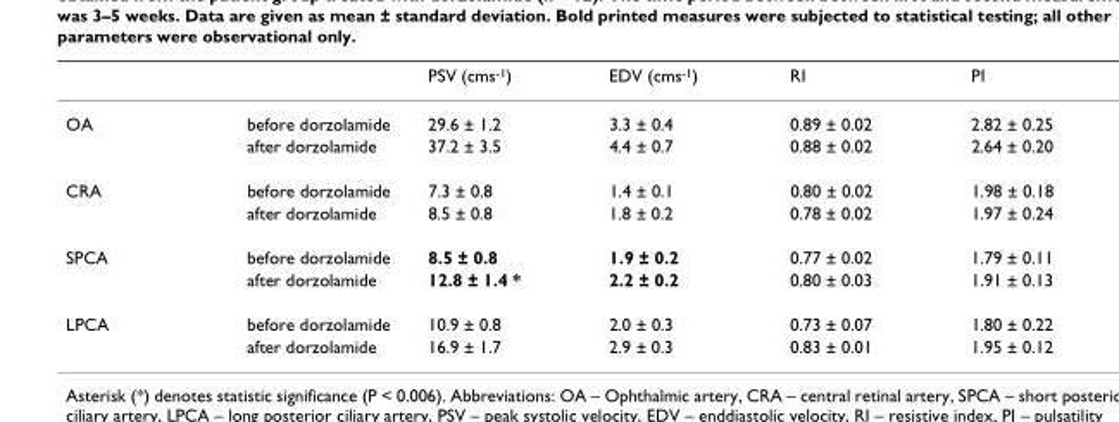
<table><thead><tr><td></td><td></td><td>PSV (cms-1)</td><td>EDV (cms-1)</td><td>RI</td><td>PI</td></tr></thead><tbody><tr><td rowspan="2">OA</td><td>before dorzolamide</td><td>29.6 ± 1.2</td><td>3.3 ± 0.4</td><td>0.89 ± 0.02</td><td>2.82 ± 0.25</td></tr><tr><td>after dorzolamide</td><td>37.2 ± 3.5</td><td>4.4 ± 0.7</td><td>0.88 ± 0.02</td><td>2.64 ± 0.20</td></tr><tr><td rowspan="2">CRA</td><td>before dorzolamide</td><td>7.3 ± 0.8</td><td>1.4 ± 0.1</td><td>0.80 ± 0.02</td><td>1.98 ± 0.18</td></tr><tr><td>after dorzolamide</td><td>8.5 ± 0.8</td><td>1.8 ± 0.2</td><td>0.78 ± 0.02</td><td>1.97 ± 0.24</td></tr><tr><td rowspan="2">SPCA</td><td>before dorzolamide</td><td>8.5 ± 0.8</td><td>1.9 ± 0.2</td><td>0.77 ± 0.02</td><td>1.79 ± 0.11</td></tr><tr><td>after dorzolamide</td><td>12.8 ± 1.4 *</td><td>2.2 ± 0.2</td><td>0.80 ± 0.03</td><td>1.91 ± 0.13</td></tr><tr><td rowspan="2">LPCA</td><td>before dorzolamide</td><td>10.9 ± 0.8</td><td>2.0 ± 0.3</td><td>0.73 ± 0.07</td><td>1.80 ± 0.22</td></tr><tr><td>after dorzolamide</td><td>16.9 ± 1.7</td><td>2.9 ± 0.3</td><td>0.83 ± 0.01</td><td>1.95 ± 0.12</td></tr></tbody></table>